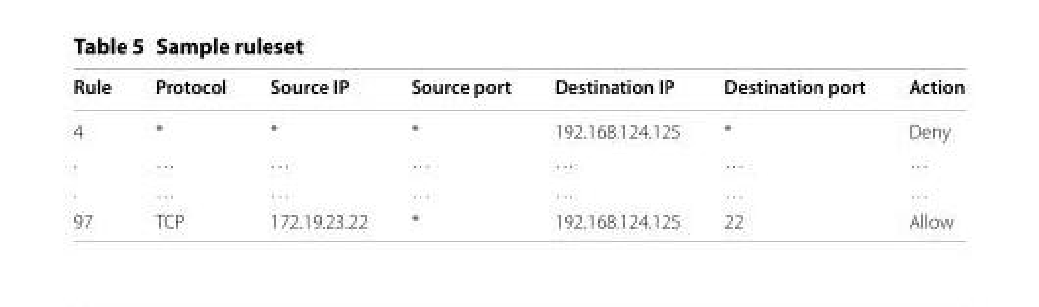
<table><thead><tr><td>Rule</td><td>Protocol</td><td>Source IP</td><td>Source port</td><td>Destination IP</td><td>Destination port</td><td>Action</td></tr></thead><tbody><tr><td>4</td><td>*</td><td>*</td><td>*</td><td>192.168.124.125</td><td>*</td><td>Deny</td></tr><tr><td>.</td><td>…</td><td>…</td><td>…</td><td>…</td><td>…</td><td>…</td></tr><tr><td>.</td><td>…</td><td>…</td><td>…</td><td>…</td><td>…</td><td>…</td></tr><tr><td>97</td><td>TCP</td><td>172.19.23.22</td><td>*</td><td>192.168.124.125</td><td>22</td><td>Allow</td></tr></tbody></table>